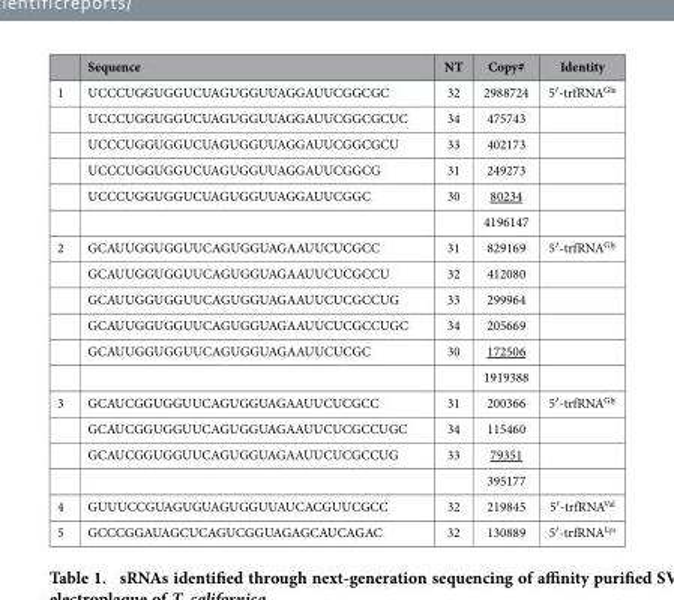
<table><thead><tr><td></td><td>Sequence</td><td>NT</td><td>Copy#</td><td>Identity</td></tr></thead><tbody><tr><td rowspan="6">1</td><td>UCCCUGGUGGUCUAGUGGUUAGGAUUCGGCGC</td><td>32</td><td>2988724</td><td>5′ -trfRNA<sup>Glu</sup></td></tr><tr><td>UCCCUGGUGGUCUAGUGGUUAGGAUUCGGCGCUC</td><td>34</td><td>475743</td><td></td></tr><tr><td>UCCCUGGUGGUCUAGUGGUUAGGAUUCGGCGCU</td><td>33</td><td>402173</td><td></td></tr><tr><td>UCCCUGGUGGUCUAGUGGUUAGGAUUCGGCG</td><td>31</td><td>249273</td><td></td></tr><tr><td>UCCCUGGUGGUCUAGUGGUUAGGAUUCGGC</td><td>30</td><td>80234</td><td></td></tr><tr><td></td><td></td><td>4196147</td><td></td></tr><tr><td rowspan="6">2</td><td>GCAUUGGUGGUUCAGUGGUAGAAUUCUCGCC</td><td>31</td><td>829169</td><td>5′ -trfRNA<sup>Gly</sup></td></tr><tr><td>GCAUUGGUGGUUCAGUGGUAGAAUUCUCGCCU</td><td>32</td><td>412080</td><td></td></tr><tr><td>GCAUUGGUGGUUCAGUGGUAGAAUUCUCGCCUG</td><td>33</td><td>299964</td><td></td></tr><tr><td>GCAUUGGUGGUUCAGUGGUAGAAUUCUCGCCUGC</td><td>34</td><td>205669</td><td></td></tr><tr><td>GCAUUGGUGGUUCAGUGGUAGAAUUCUCGC</td><td>30</td><td>172506</td><td></td></tr><tr><td></td><td></td><td>1919388</td><td></td></tr><tr><td rowspan="4">3</td><td>GCAUCGGUGGUUCAGUGGUAGAAUUCUCGCC</td><td>31</td><td>200366</td><td>5′ -trfRNA<sup>Gly</sup></td></tr><tr><td>GCAUCGGUGGUUCAGUGGUAGAAUUCUCGCCUGC</td><td>34</td><td>115460</td><td></td></tr><tr><td>GCAUCGGUGGUUCAGUGGUAGAAUUCUCGCCUG</td><td>33</td><td>79351</td><td></td></tr><tr><td></td><td></td><td>395177</td><td></td></tr><tr><td>4</td><td>GUUUCCGUAGUGUAGUGGUUAUCACGUUCGCC</td><td>32</td><td>219845</td><td>5′ -trfRNA<sup>Val</sup></td></tr><tr><td>5</td><td>GCCCGGAUAGCUCAGUCGGUAGAGCAUCAGAC</td><td>32</td><td>130889</td><td>5′ -trfRNA<sup>Lys</sup></td></tr></tbody></table>